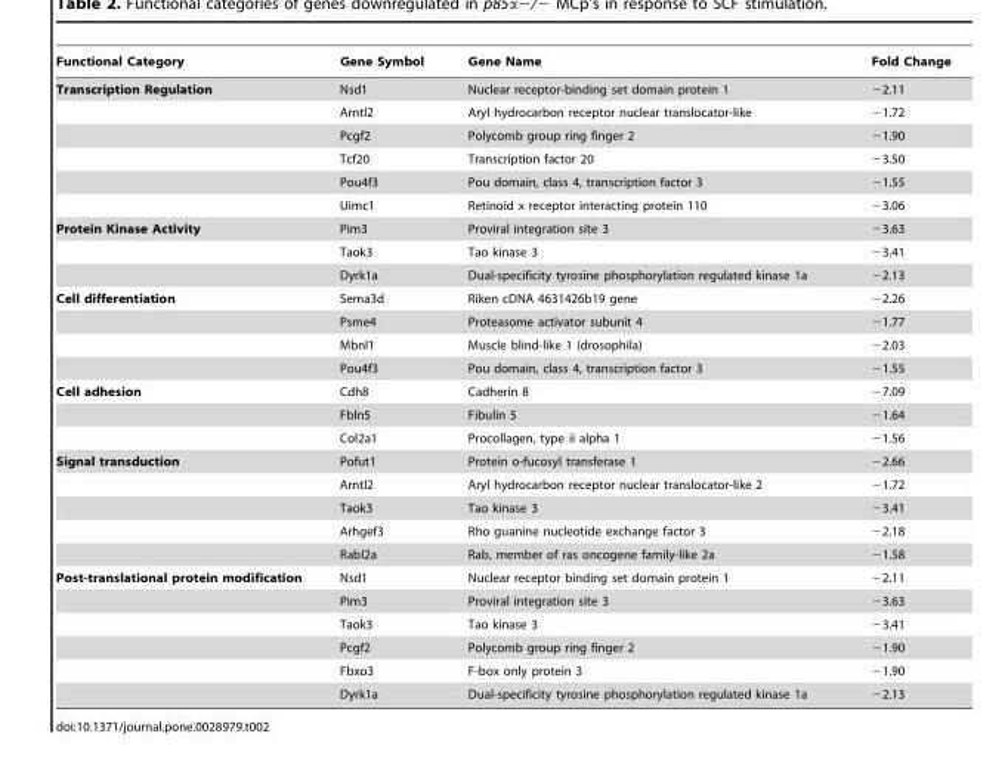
<table><thead><tr><td>Functional Category</td><td>Gene Symbol</td><td>Gene Name</td><td>Fold Change</td></tr></thead><tbody><tr><td rowspan="6">Transcription Regulation</td><td>Nsd1</td><td>Nuclear receptor-binding set domain protein 1</td><td>−2.11</td></tr><tr><td>Arntl2</td><td>Aryl hydrocarbon receptor nuclear translocator-like</td><td>−1.72</td></tr><tr><td>Pcgf2</td><td>Polycomb group ring finger 2</td><td>−1.90</td></tr><tr><td>Tcf20</td><td>Transcription factor 20</td><td>−3.50</td></tr><tr><td>Pou4f3</td><td>Pou domain, class 4, transcription factor 3</td><td>−1.55</td></tr><tr><td>Uimc1</td><td>Retinoid x receptor interacting protein 110</td><td>−3.06</td></tr><tr><td rowspan="3">Protein Kinase Activity</td><td>Pim3</td><td>Proviral integration site 3</td><td>−3.63</td></tr><tr><td>Taok3</td><td>Tao kinase 3</td><td>−3.41</td></tr><tr><td>Dyrk1a</td><td>Dual-specificity tyrosine phosphorylation regulated kinase 1a</td><td>−2.13</td></tr><tr><td rowspan="4">Cell differentiation</td><td>Sema3d</td><td>Riken cDNA 4631426b19 gene</td><td>−2.26</td></tr><tr><td>Psme4</td><td>Proteasome activator subunit 4</td><td>−1.77</td></tr><tr><td>Mbnl1</td><td>Muscle blind-like 1 (drosophila)</td><td>−2.03</td></tr><tr><td>Pou4f3</td><td>Pou domain, class 4, transcription factor 3</td><td>−1.55</td></tr><tr><td rowspan="3">Cell adhesion</td><td>Cdh8</td><td>Cadherin 8</td><td>−7.09</td></tr><tr><td>Fbln5</td><td>Fibulin 5</td><td>−1.64</td></tr><tr><td>Col2a1</td><td>Procollagen, type ii alpha 1</td><td>−1.56</td></tr><tr><td rowspan="5">Signal transduction</td><td>Pofut1</td><td>Protein o-fucosyl transferase 1</td><td>−2.66</td></tr><tr><td>Arntl2</td><td>Aryl hydrocarbon receptor nuclear translocator-like 2</td><td>−1.72</td></tr><tr><td>Taok3</td><td>Tao kinase 3</td><td>−3.41</td></tr><tr><td>Arhgef3</td><td>Rho guanine nucleotide exchange factor 3</td><td>−2.18</td></tr><tr><td>Rabl2a</td><td>Rab, member of ras oncogene family-like 2a</td><td>−1.58</td></tr><tr><td rowspan="6">Post-translational protein modification</td><td>Nsd1</td><td>Nuclear receptor binding set domain protein 1</td><td>−2.11</td></tr><tr><td>Pim3</td><td>Proviral integration site 3</td><td>−3.63</td></tr><tr><td>Taok3</td><td>Tao kinase 3</td><td>−3.41</td></tr><tr><td>Pcgf2</td><td>Polycomb group ring finger 2</td><td>−1.90</td></tr><tr><td>Fbxo3</td><td>F-box only protein 3</td><td>−1.90</td></tr><tr><td>Dyrk1a</td><td>Dual-specificity tyrosine phosphorylation regulated kinase 1a</td><td>−2.13</td></tr></tbody></table>